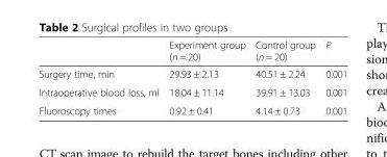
<table><thead><tr><td></td><td>Experiment group (n = 20)</td><td>Control group (n = 20)</td><td>P</td></tr></thead><tbody><tr><td>Surgery time, min</td><td>29.93 ± 2.13</td><td>40.51 ± 2.24</td><td>0.001</td></tr><tr><td>Intraoperative blood loss, ml</td><td>18.04 ± 11.14</td><td>39.91 ± 13.03</td><td>0.001</td></tr><tr><td>Fluoroscopy times</td><td>0.92 ± 0.41</td><td>4.14 ± 0.73</td><td>0.001</td></tr></tbody></table>